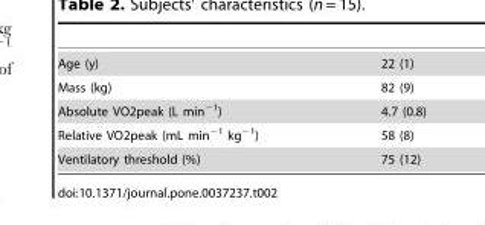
<table><tbody><tr><td>Age (y)</td><td>22 (1)</td></tr><tr><td>Mass (kg)</td><td>82 (9)</td></tr><tr><td>Absolute VO2peak (L min<sup>−1</sup>)</td><td>4.7 (0.8)</td></tr><tr><td>Relative VO2peak (mL min<sup>−1</sup> kg<sup>−1</sup>)</td><td>58 (8)</td></tr><tr><td>Ventilatory threshold (%)</td><td>75 (12)</td></tr></tbody></table>